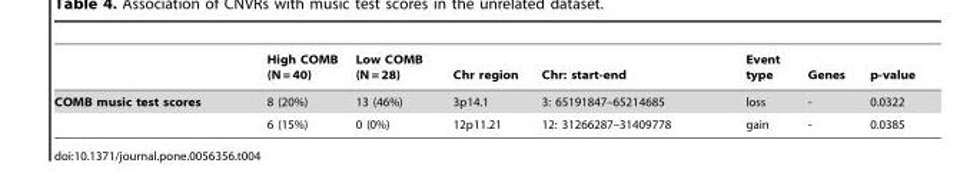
<table><thead><tr><td></td><td>High COMB (N = 40)</td><td>Low COMB (N = 28)</td><td>Chr region</td><td>Chr: start-end</td><td>Event type</td><td>Genes</td><td>p-value</td></tr></thead><tbody><tr><td rowspan="2">COMB music test scores</td><td>8 (20%)</td><td>13 (46%)</td><td>3p14.1</td><td>3: 65191847–65214685</td><td>loss</td><td>-</td><td>0.0322</td></tr><tr><td>6 (15%)</td><td>0 (0%)</td><td>12p11.21</td><td>12: 31266287–31409778</td><td>gain</td><td>-</td><td>0.0385</td></tr></tbody></table>